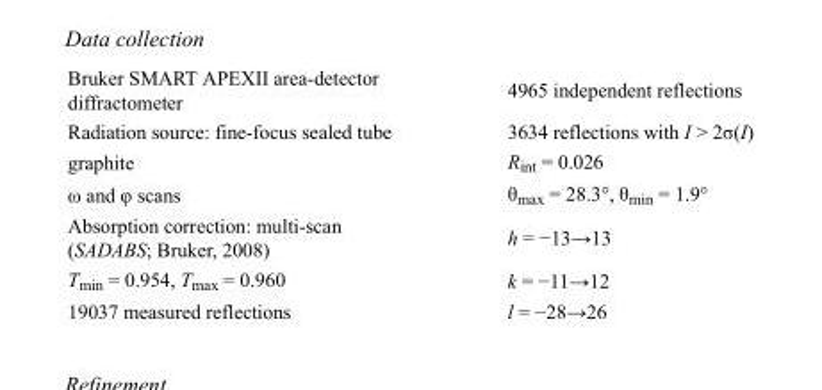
<table><tbody><tr><td>Bruker SMART APEXII area-detector diffractometer</td><td>4965 independent reflections</td></tr><tr><td>Radiation source: fine-focus sealed tube</td><td>3634 reflections with I &gt; 2σ(I)</td></tr><tr><td>graphite</td><td>R<sub>int</sub> = 0.026</td></tr><tr><td>ω and φ scans</td><td>θ<sub>max</sub> = 28.3°, θ<sub>min</sub> = 1.9°</td></tr><tr><td>Absorption correction: multi-scan (SADABS; Bruker, 2008)</td><td>h = −13→13</td></tr><tr><td>T<sub>min</sub> = 0.954, T<sub>max</sub> = 0.960</td><td>k = −11→12</td></tr><tr><td>19037 measured reflections</td><td>l = −28→26</td></tr></tbody></table>